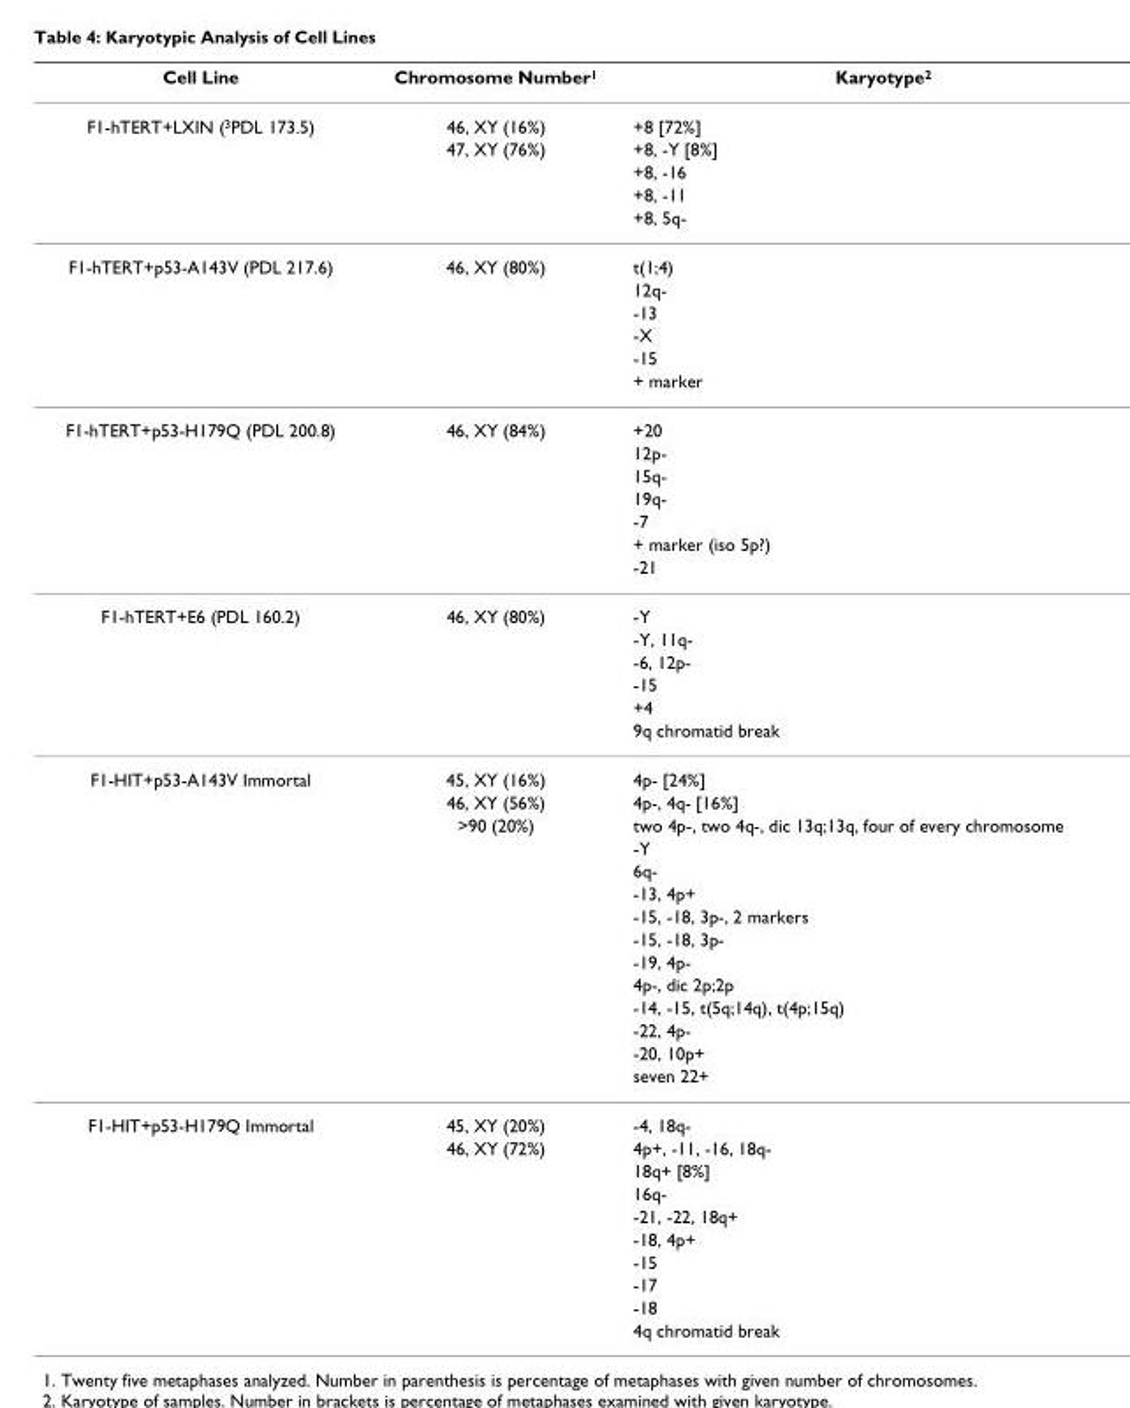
<table><thead><tr><td>Cell Line</td><td>Chromosome Number<sup>1</sup></td><td>Karyotype<sup>2</sup></td></tr></thead><tbody><tr><td rowspan="5">F1-hTERT+LXIN (<sup>3</sup>PDL 173.5)</td><td>46, XY (16%)</td><td>+8 [72%]</td></tr><tr><td>47, XY (76%)</td><td>+8, -Y [8%]</td></tr><tr><td></td><td>+8, -16</td></tr><tr><td></td><td>+8, -11</td></tr><tr><td></td><td>+8, 5q-</td></tr><tr><td rowspan="6">F1-hTERT+p53-A143V (PDL 217.6)</td><td>46, XY (80%)</td><td>t(1;4)</td></tr><tr><td></td><td>12q-</td></tr><tr><td></td><td>-13</td></tr><tr><td></td><td>-X</td></tr><tr><td></td><td>-15</td></tr><tr><td></td><td>+ marker</td></tr><tr><td rowspan="7">F1-hTERT+p53-H179Q (PDL 200.8)</td><td>46, XY (84%)</td><td>+20</td></tr><tr><td></td><td>12p-</td></tr><tr><td></td><td>15q-</td></tr><tr><td></td><td>19q-</td></tr><tr><td></td><td>-7</td></tr><tr><td></td><td>+ marker (iso 5p?)</td></tr><tr><td></td><td>-21</td></tr><tr><td rowspan="6">F1-hTERT+E6 (PDL 160.2)</td><td>46, XY (80%)</td><td>-Y</td></tr><tr><td></td><td>-Y, 11q-</td></tr><tr><td></td><td>-6, 12p-</td></tr><tr><td></td><td>-15</td></tr><tr><td></td><td>+4</td></tr><tr><td></td><td>9q chromatid break</td></tr><tr><td rowspan="14">F1-HIT+p53-A143V Immortal</td><td>45, XY (16%)</td><td>4p- [24%]</td></tr><tr><td>46, XY (56%)</td><td>4p-, 4q- [16%]</td></tr><tr><td>&gt;90 (20%)</td><td>two 4p-, two 4q-, dic 13q;13q, four of every chromosome</td></tr><tr><td></td><td>-Y</td></tr><tr><td></td><td>6q-</td></tr><tr><td></td><td>-13, 4p+</td></tr><tr><td></td><td>-15, -18, 3p-, 2 markers</td></tr><tr><td></td><td>-15, -18, 3p-</td></tr><tr><td></td><td>-19, 4p-</td></tr><tr><td></td><td>4p-, dic 2p;2p</td></tr><tr><td></td><td>-14, -15, t(5q;14q), t(4p;15q)</td></tr><tr><td></td><td>-22, 4p-</td></tr><tr><td></td><td>-20, 10p+</td></tr><tr><td></td><td>seven 22+</td></tr><tr><td rowspan="10">F1-HIT+p53-H179Q Immortal</td><td>45, XY (20%)</td><td>-4, 18q-</td></tr><tr><td>46, XY (72%)</td><td>4p+, -11, -16, 18q-</td></tr><tr><td></td><td>18q+ [8%]</td></tr><tr><td></td><td>16q-</td></tr><tr><td></td><td>-21, -22, 18q+</td></tr><tr><td></td><td>-18, 4p+</td></tr><tr><td></td><td>-15</td></tr><tr><td></td><td>-17</td></tr><tr><td></td><td>-18</td></tr><tr><td></td><td>4q chromatid break</td></tr></tbody></table>